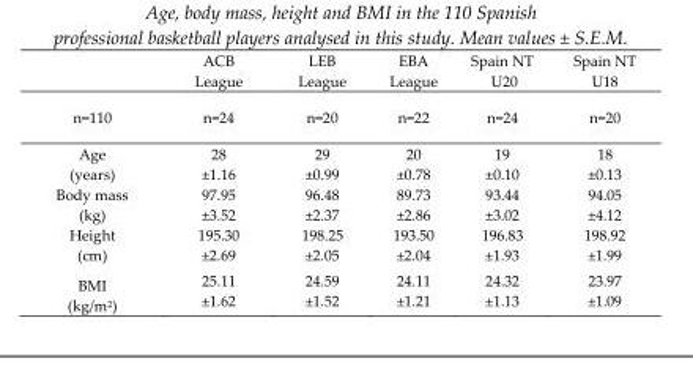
<table><thead><tr><td rowspan="2">n=110</td><td rowspan="2">ACB League n=24</td><td rowspan="2">LEB League n=20</td><td rowspan="2">EBA League n=22</td><td rowspan="2">Spain NT U20 n=24</td><td rowspan="2">Spain NT U18 n=20</td></tr><tr></tr></thead><tbody><tr><td>Age (years)</td><td>28 ±1.16</td><td>29 ±0.99</td><td>20 ±0.78</td><td>19 ±0.10</td><td>18 ±0.13</td></tr><tr><td>Body mass (kg)</td><td>97.95 ±3.52</td><td>96.48 ±2.37</td><td>89.73 ±2.86</td><td>93.44 ±3.02</td><td>94.05 ±4.12</td></tr><tr><td>Height (cm)</td><td>195.30 ±2.69</td><td>198.25 ±2.05</td><td>193.50 ±2.04</td><td>196.83 ±1.93</td><td>198.92 ±1.99</td></tr><tr><td>BMI (kg/m<sup>2</sup>)</td><td>25.11 ±1.62</td><td>24.59 ±1.52</td><td>24.11 ±1.21</td><td>24.32 ±1.13</td><td>23.97 ±1.09</td></tr></tbody></table>